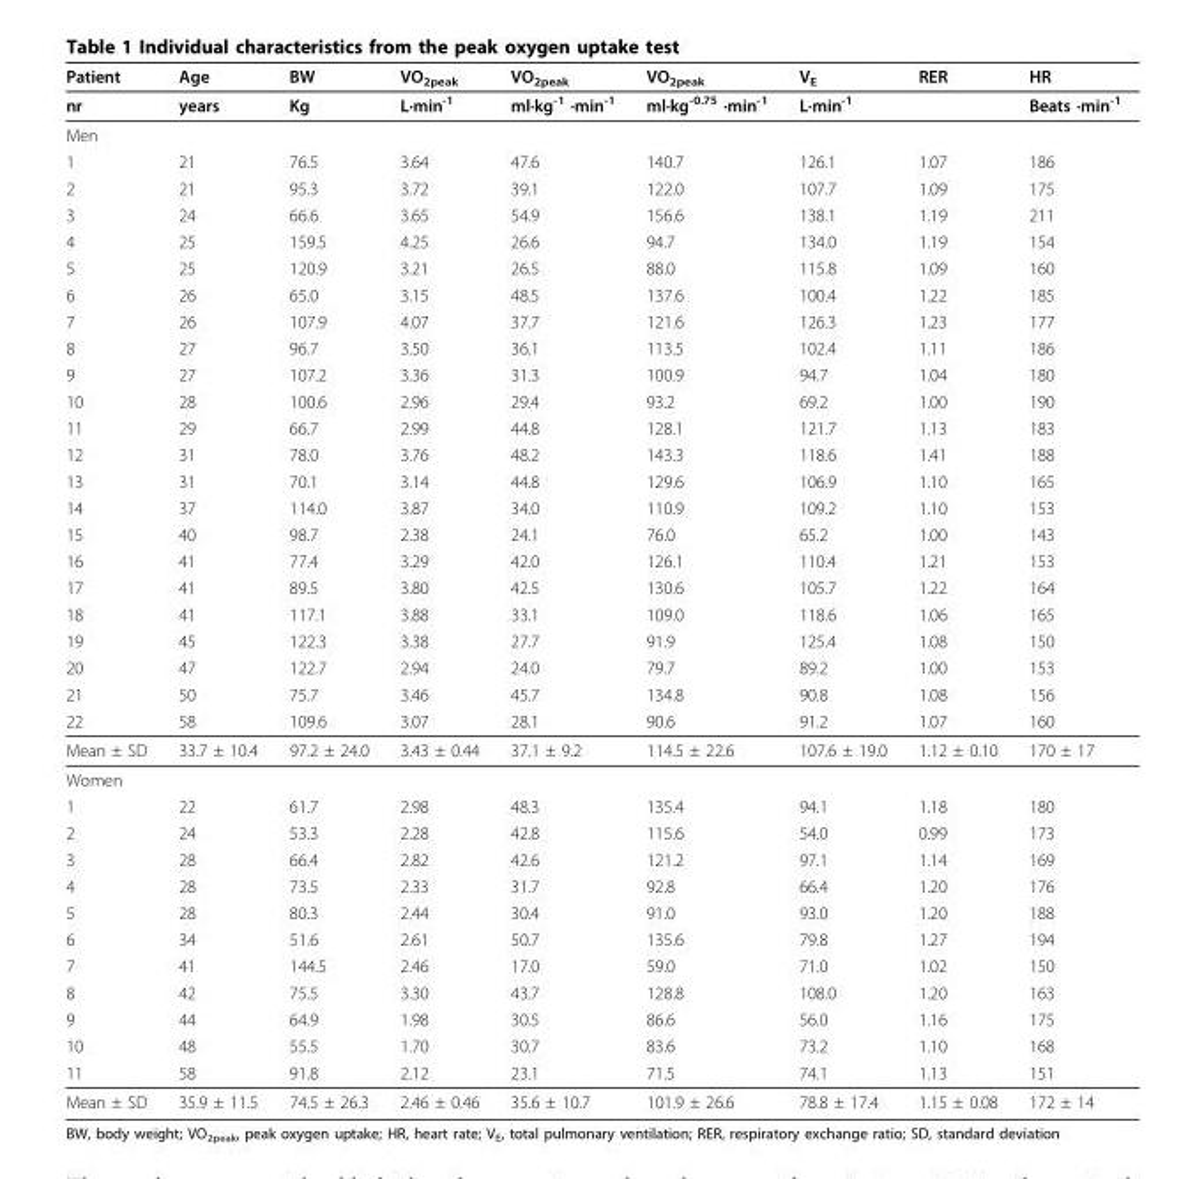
<table><thead><tr><td>Patient</td><td>Age</td><td>BW</td><td>VO<sub>2peak</sub></td><td>VO<sub>2peak</sub></td><td>VO<sub>2peak</sub></td><td>V<sub>E</sub></td><td>RER</td><td>HR</td></tr></thead><tbody><tr><td>nr</td><td>years</td><td>Kg</td><td>L·min<sup>-1</sup></td><td>ml·kg<sup>-1</sup> ·min<sup>-1</sup></td><td>ml·kg<sup>-0.75</sup> ·min<sup>-1</sup></td><td>L·min<sup>-1</sup></td><td></td><td>Beats ·min<sup>-1</sup></td></tr><tr><td colspan="9">Men</td></tr><tr><td>1</td><td>21</td><td>76.5</td><td>3.64</td><td>47.6</td><td>140.7</td><td>126.1</td><td>1.07</td><td>186</td></tr><tr><td>2</td><td>21</td><td>95.3</td><td>3.72</td><td>39.1</td><td>122.0</td><td>107.7</td><td>1.09</td><td>175</td></tr><tr><td>3</td><td>24</td><td>66.6</td><td>3.65</td><td>54.9</td><td>156.6</td><td>138.1</td><td>1.19</td><td>211</td></tr><tr><td>4</td><td>25</td><td>159.5</td><td>4.25</td><td>26.6</td><td>94.7</td><td>134.0</td><td>1.19</td><td>154</td></tr><tr><td>5</td><td>25</td><td>120.9</td><td>3.21</td><td>26.5</td><td>88.0</td><td>115.8</td><td>1.09</td><td>160</td></tr><tr><td>6</td><td>26</td><td>65.0</td><td>3.15</td><td>48.5</td><td>137.6</td><td>100.4</td><td>1.22</td><td>185</td></tr><tr><td>7</td><td>26</td><td>107.9</td><td>4.07</td><td>37.7</td><td>121.6</td><td>126.3</td><td>1.23</td><td>177</td></tr><tr><td>8</td><td>27</td><td>96.7</td><td>3.50</td><td>36.1</td><td>113.5</td><td>102.4</td><td>1.11</td><td>186</td></tr><tr><td>9</td><td>27</td><td>107.2</td><td>3.36</td><td>31.3</td><td>100.9</td><td>94.7</td><td>1.04</td><td>180</td></tr><tr><td>10</td><td>28</td><td>100.6</td><td>2.96</td><td>29.4</td><td>93.2</td><td>69.2</td><td>1.00</td><td>190</td></tr><tr><td>11</td><td>29</td><td>66.7</td><td>2.99</td><td>44.8</td><td>128.1</td><td>121.7</td><td>1.13</td><td>183</td></tr><tr><td>12</td><td>31</td><td>78.0</td><td>3.76</td><td>48.2</td><td>143.3</td><td>118.6</td><td>1.41</td><td>188</td></tr><tr><td>13</td><td>31</td><td>70.1</td><td>3.14</td><td>44.8</td><td>129.6</td><td>106.9</td><td>1.10</td><td>165</td></tr><tr><td>14</td><td>37</td><td>114.0</td><td>3.87</td><td>34.0</td><td>110.9</td><td>109.2</td><td>1.10</td><td>153</td></tr><tr><td>15</td><td>40</td><td>98.7</td><td>2.38</td><td>24.1</td><td>76.0</td><td>65.2</td><td>1.00</td><td>143</td></tr><tr><td>16</td><td>41</td><td>77.4</td><td>3.29</td><td>42.0</td><td>126.1</td><td>110.4</td><td>1.21</td><td>153</td></tr><tr><td>17</td><td>41</td><td>89.5</td><td>3.80</td><td>42.5</td><td>130.6</td><td>105.7</td><td>1.22</td><td>164</td></tr><tr><td>18</td><td>41</td><td>117.1</td><td>3.88</td><td>33.1</td><td>109.0</td><td>118.6</td><td>1.06</td><td>165</td></tr><tr><td>19</td><td>45</td><td>122.3</td><td>3.38</td><td>27.7</td><td>91.9</td><td>125.4</td><td>1.08</td><td>150</td></tr><tr><td>20</td><td>47</td><td>122.7</td><td>2.94</td><td>24.0</td><td>79.7</td><td>89.2</td><td>1.00</td><td>153</td></tr><tr><td>21</td><td>50</td><td>75.7</td><td>3.46</td><td>45.7</td><td>134.8</td><td>90.8</td><td>1.08</td><td>156</td></tr><tr><td>22</td><td>58</td><td>109.6</td><td>3.07</td><td>28.1</td><td>90.6</td><td>91.2</td><td>1.07</td><td>160</td></tr><tr><td>Mean ± SD</td><td>33.7 ± 10.4</td><td>97.2 ± 24.0</td><td>3.43 ± 0.44</td><td>37.1 ± 9.2</td><td>114.5 ± 22.6</td><td>107.6 ± 19.0</td><td>1.12 ± 0.10</td><td>170 ± 17</td></tr><tr><td colspan="9">Women</td></tr><tr><td>1</td><td>22</td><td>61.7</td><td>2.98</td><td>48.3</td><td>135.4</td><td>94.1</td><td>1.18</td><td>180</td></tr><tr><td>2</td><td>24</td><td>53.3</td><td>2.28</td><td>42.8</td><td>115.6</td><td>54.0</td><td>0.99</td><td>173</td></tr><tr><td>3</td><td>28</td><td>66.4</td><td>2.82</td><td>42.6</td><td>121.2</td><td>97.1</td><td>1.14</td><td>169</td></tr><tr><td>4</td><td>28</td><td>73.5</td><td>2.33</td><td>31.7</td><td>92.8</td><td>66.4</td><td>1.20</td><td>176</td></tr><tr><td>5</td><td>28</td><td>80.3</td><td>2.44</td><td>30.4</td><td>91.0</td><td>93.0</td><td>1.20</td><td>188</td></tr><tr><td>6</td><td>34</td><td>51.6</td><td>2.61</td><td>50.7</td><td>135.6</td><td>79.8</td><td>1.27</td><td>194</td></tr><tr><td>7</td><td>41</td><td>144.5</td><td>2.46</td><td>17.0</td><td>59.0</td><td>71.0</td><td>1.02</td><td>150</td></tr><tr><td>8</td><td>42</td><td>75.5</td><td>3.30</td><td>43.7</td><td>128.8</td><td>108.0</td><td>1.20</td><td>163</td></tr><tr><td>9</td><td>44</td><td>64.9</td><td>1.98</td><td>30.5</td><td>86.6</td><td>56.0</td><td>1.16</td><td>175</td></tr><tr><td>10</td><td>48</td><td>55.5</td><td>1.70</td><td>30.7</td><td>83.6</td><td>73.2</td><td>1.10</td><td>168</td></tr><tr><td>11</td><td>58</td><td>91.8</td><td>2.12</td><td>23.1</td><td>71.5</td><td>74.1</td><td>1.13</td><td>151</td></tr><tr><td>Mean ± SD</td><td>35.9 ± 11.5</td><td>74.5 ± 26.3</td><td>2.46 ± 0.46</td><td>35.6 ± 10.7</td><td>101.9 ± 26.6</td><td>78.8 ± 17.4</td><td>1.15 ± 0.08</td><td>172 ± 14</td></tr></tbody></table>